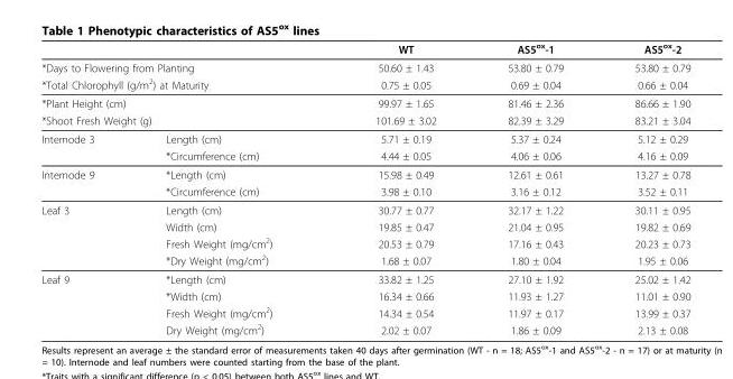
<table><thead><tr><td></td><td></td><td>WT</td><td>AS5<sup>ox</sup>-1</td><td>AS5<sup>ox</sup>-2</td></tr></thead><tbody><tr><td colspan="2">*Days to Flowering from Planting</td><td>50.60 ± 1.43</td><td>53.80 ± 0.79</td><td>53.80 ± 0.79</td></tr><tr><td colspan="2">*Total Chlorophyll (g/m<sup>2</sup>) at Maturity</td><td>0.75 ± 0.05</td><td>0.69 ± 0.04</td><td>0.66 ± 0.04</td></tr><tr><td colspan="2">*Plant Height (cm)</td><td>99.97 ± 1.65</td><td>81.46 ± 2.36</td><td>86.66 ± 1.90</td></tr><tr><td colspan="2">*Shoot Fresh Weight (g)</td><td>101.69 ± 3.02</td><td>82.39 ± 3.29</td><td>83.21 ± 3.04</td></tr><tr><td rowspan="2">Internode 3</td><td>Length (cm)</td><td>5.71 ± 0.19</td><td>5.37 ± 0.24</td><td>5.12 ± 0.29</td></tr><tr><td>*Circumference (cm)</td><td>4.44 ± 0.05</td><td>4.06 ± 0.06</td><td>4.16 ± 0.09</td></tr><tr><td rowspan="2">Internode 9</td><td>*Length (cm)</td><td>15.98 ± 0.49</td><td>12.61 ± 0.61</td><td>13.27 ± 0.78</td></tr><tr><td>*Circumference (cm)</td><td>3.98 ± 0.10</td><td>3.16 ± 0.12</td><td>3.52 ± 0.11</td></tr><tr><td rowspan="4">Leaf 3</td><td>Length (cm)</td><td>30.77 ± 0.77</td><td>32.17 ± 1.22</td><td>30.11 ± 0.95</td></tr><tr><td>Width (cm)</td><td>19.85 ± 0.47</td><td>21.04 ± 0.95</td><td>19.82 ± 0.69</td></tr><tr><td>Fresh Weight (mg/cm<sup>2</sup>)</td><td>20.53 ± 0.79</td><td>17.16 ± 0.43</td><td>20.23 ± 0.73</td></tr><tr><td>*Dry Weight (mg/cm<sup>2</sup>)</td><td>1.68 ± 0.07</td><td>1.80 ± 0.04</td><td>1.95 ± 0.06</td></tr><tr><td rowspan="4">Leaf 9</td><td>*Length (cm)</td><td>33.82 ± 1.25</td><td>27.10 ± 1.92</td><td>25.02 ± 1.42</td></tr><tr><td>*Width (cm)</td><td>16.34 ± 0.66</td><td>11.93 ± 1.27</td><td>11.01 ± 0.90</td></tr><tr><td>Fresh Weight (mg/cm<sup>2</sup>)</td><td>14.34 ± 0.54</td><td>11.97 ± 0.17</td><td>13.99 ± 0.37</td></tr><tr><td>Dry Weight (mg/cm<sup>2</sup>)</td><td>2.02 ± 0.07</td><td>1.86 ± 0.09</td><td>2.13 ± 0.08</td></tr></tbody></table>